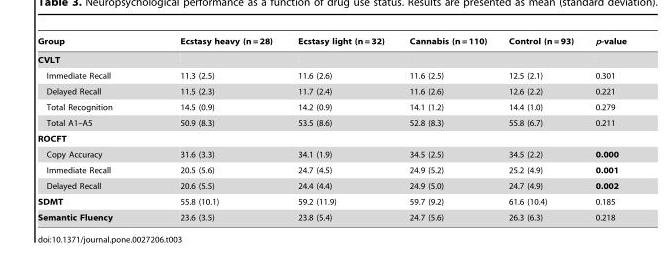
<table><thead><tr><td>Group</td><td>Ecstasy heavy (n = 28)</td><td>Ecstasy light (n = 32)</td><td>Cannabis (n = 110)</td><td>Control (n = 93)</td><td>p-value</td></tr></thead><tbody><tr><td colspan="6">CVLT</td></tr><tr><td>Immediate Recall</td><td>11.3 (2.5)</td><td>11.6 (2.6)</td><td>11.6 (2.5)</td><td>12.5 (2.1)</td><td>0.301</td></tr><tr><td>Delayed Recall</td><td>11.5 (2.3)</td><td>11.7 (2.4)</td><td>11.6 (2.6)</td><td>12.6 (2.2)</td><td>0.221</td></tr><tr><td>Total Recognition</td><td>14.5 (0.9)</td><td>14.2 (0.9)</td><td>14.1 (1.2)</td><td>14.4 (1.0)</td><td>0.279</td></tr><tr><td>Total A1–A5</td><td>50.9 (8.3)</td><td>53.5 (8.6)</td><td>52.8 (8.3)</td><td>55.8 (6.7)</td><td>0.211</td></tr><tr><td colspan="6">ROCFT</td></tr><tr><td>Copy Accuracy</td><td>31.6 (3.3)</td><td>34.1 (1.9)</td><td>34.5 (2.5)</td><td>34.5 (2.2)</td><td>0.000</td></tr><tr><td>Immediate Recall</td><td>20.5 (5.6)</td><td>24.7 (4.5)</td><td>24.9 (5.2)</td><td>25.2 (4.9)</td><td>0.001</td></tr><tr><td>Delayed Recall</td><td>20.6 (5.5)</td><td>24.4 (4.4)</td><td>24.9 (5.0)</td><td>24.7 (4.9)</td><td>0.002</td></tr><tr><td>SDMT</td><td>55.8 (10.1)</td><td>59.2 (11.9)</td><td>59.7 (9.2)</td><td>61.6 (10.4)</td><td>0.185</td></tr><tr><td>Semantic Fluency</td><td>23.6 (3.5)</td><td>23.8 (5.4)</td><td>24.7 (5.6)</td><td>26.3 (6.3)</td><td>0.218</td></tr></tbody></table>